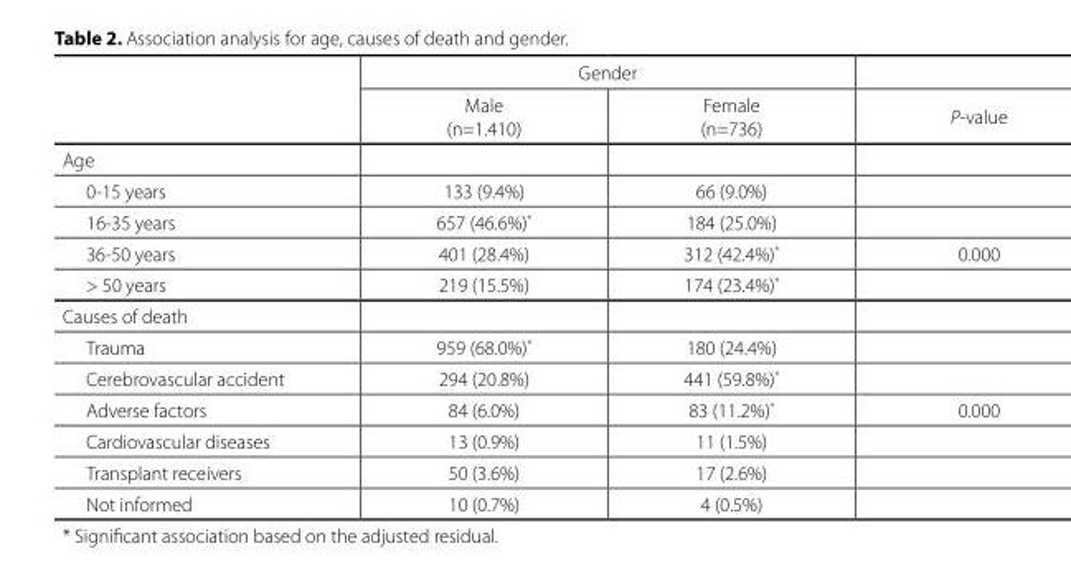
<table><thead><tr><td rowspan="2"></td><td colspan="2">Gender</td><td rowspan="2">P-value</td></tr><tr><td>Male (n=1.410)</td><td>Female (n=736)</td></tr></thead><tbody><tr><td colspan="4">Age</td></tr><tr><td>0-15 years</td><td>133 (9.4%)</td><td>66 (9.0%)</td><td></td></tr><tr><td>16-35 years</td><td>657 (46.6%)*</td><td>184 (25.0%)</td><td></td></tr><tr><td>36-50 years</td><td>401 (28.4%)</td><td>312 (42.4%)*</td><td>0.000</td></tr><tr><td>&gt; 50 years</td><td>219 (15.5%)</td><td>174 (23.4%)*</td><td></td></tr><tr><td colspan="4">Causes of death</td></tr><tr><td>Trauma</td><td>959 (68.0%)*</td><td>180 (24.4%)</td><td></td></tr><tr><td>Cerebrovascular accident</td><td>294 (20.8%)</td><td>441 (59.8%)*</td><td></td></tr><tr><td>Adverse factors</td><td>84 (6.0%)</td><td>83 (11.2%)*</td><td>0.000</td></tr><tr><td>Cardiovascular diseases</td><td>13 (0.9%)</td><td>11 (1.5%)</td><td></td></tr><tr><td>Transplant receivers</td><td>50 (3.6%)</td><td>17 (2.6%)</td><td></td></tr><tr><td>Not informed</td><td>10 (0.7%)</td><td>4 (0.5%)</td><td></td></tr></tbody></table>